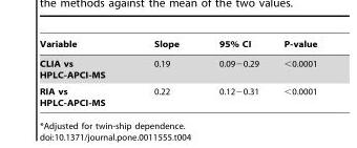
<table><thead><tr><td>Variable</td><td>Slope</td><td>95% CI</td><td>P-value</td></tr></thead><tbody><tr><td>CLIA vs HPLC-APCI-MS</td><td>0.19</td><td>0.09−0.29</td><td>&lt;0.0001</td></tr><tr><td>RIA vs HPLC-APCI-MS</td><td>0.22</td><td>0.12−0.31</td><td>&lt;0.0001</td></tr></tbody></table>